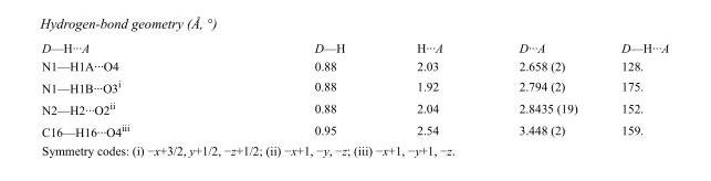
<table><tbody><tr><td>D—H···A</td><td>D—H</td><td>H···A</td><td>D···A</td><td>D—H···A</td></tr><tr><td>N1—H1A···O4</td><td>0.88</td><td>2.03</td><td>2.658 (2)</td><td>128.</td></tr><tr><td>N1—H1B···O3<sup>i</sup></td><td>0.88</td><td>1.92</td><td>2.794 (2)</td><td>175.</td></tr><tr><td>N2—H2···O2<sup>ii</sup></td><td>0.88</td><td>2.04</td><td>2.8435 (19)</td><td>152.</td></tr><tr><td>C16—H16···O4<sup>iii</sup></td><td>0.95</td><td>2.54</td><td>3.448 (2)</td><td>159.</td></tr></tbody></table>